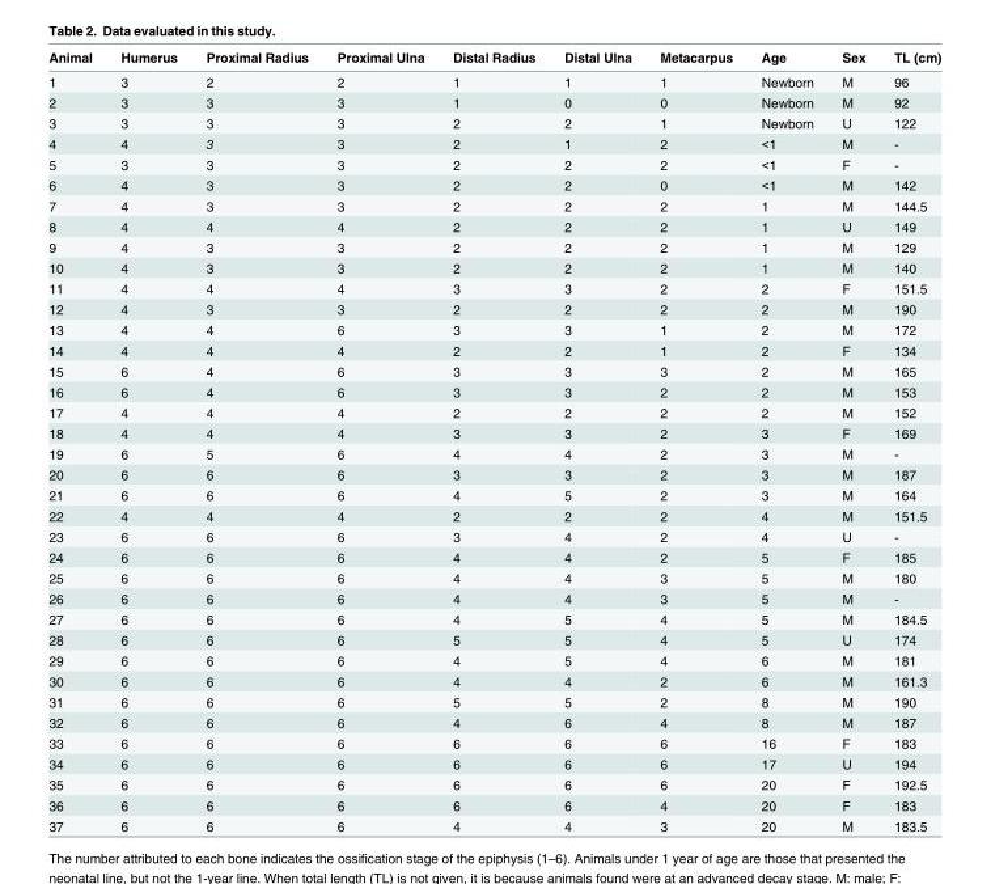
<table><thead><tr><td>Animal</td><td>Humerus</td><td>Proximal Radius</td><td>Proximal Ulna</td><td>Distal Radius</td><td>Distal Ulna</td><td>Metacarpus</td><td>Age</td><td>Sex</td><td>TL (cm)</td></tr></thead><tbody><tr><td>1</td><td>3</td><td>2</td><td>2</td><td>1</td><td>1</td><td>1</td><td>Newborn</td><td>M</td><td>96</td></tr><tr><td>2</td><td>3</td><td>3</td><td>3</td><td>1</td><td>0</td><td>0</td><td>Newborn</td><td>M</td><td>92</td></tr><tr><td>3</td><td>3</td><td>3</td><td>3</td><td>2</td><td>2</td><td>1</td><td>Newborn</td><td>U</td><td>122</td></tr><tr><td>4</td><td>4</td><td>3</td><td>3</td><td>2</td><td>1</td><td>2</td><td>&lt;1</td><td>M</td><td>-</td></tr><tr><td>5</td><td>3</td><td>3</td><td>3</td><td>2</td><td>2</td><td>2</td><td>&lt;1</td><td>F</td><td>-</td></tr><tr><td>6</td><td>4</td><td>3</td><td>3</td><td>2</td><td>2</td><td>0</td><td>&lt;1</td><td>M</td><td>142</td></tr><tr><td>7</td><td>4</td><td>3</td><td>3</td><td>2</td><td>2</td><td>2</td><td>1</td><td>M</td><td>144.5</td></tr><tr><td>8</td><td>4</td><td>4</td><td>4</td><td>2</td><td>2</td><td>2</td><td>1</td><td>U</td><td>149</td></tr><tr><td>9</td><td>4</td><td>3</td><td>3</td><td>2</td><td>2</td><td>2</td><td>1</td><td>M</td><td>129</td></tr><tr><td>10</td><td>4</td><td>3</td><td>3</td><td>2</td><td>2</td><td>2</td><td>1</td><td>M</td><td>140</td></tr><tr><td>11</td><td>4</td><td>4</td><td>4</td><td>3</td><td>3</td><td>2</td><td>2</td><td>F</td><td>151.5</td></tr><tr><td>12</td><td>4</td><td>3</td><td>3</td><td>2</td><td>2</td><td>2</td><td>2</td><td>M</td><td>190</td></tr><tr><td>13</td><td>4</td><td>4</td><td>6</td><td>3</td><td>3</td><td>1</td><td>2</td><td>M</td><td>172</td></tr><tr><td>14</td><td>4</td><td>4</td><td>4</td><td>2</td><td>2</td><td>1</td><td>2</td><td>F</td><td>134</td></tr><tr><td>15</td><td>6</td><td>4</td><td>6</td><td>3</td><td>3</td><td>3</td><td>2</td><td>M</td><td>165</td></tr><tr><td>16</td><td>6</td><td>4</td><td>6</td><td>3</td><td>3</td><td>2</td><td>2</td><td>M</td><td>153</td></tr><tr><td>17</td><td>4</td><td>4</td><td>4</td><td>2</td><td>2</td><td>2</td><td>2</td><td>M</td><td>152</td></tr><tr><td>18</td><td>4</td><td>4</td><td>4</td><td>3</td><td>3</td><td>2</td><td>3</td><td>F</td><td>169</td></tr><tr><td>19</td><td>6</td><td>5</td><td>6</td><td>4</td><td>4</td><td>2</td><td>3</td><td>M</td><td>-</td></tr><tr><td>20</td><td>6</td><td>6</td><td>6</td><td>3</td><td>3</td><td>2</td><td>3</td><td>M</td><td>187</td></tr><tr><td>21</td><td>6</td><td>6</td><td>6</td><td>4</td><td>5</td><td>2</td><td>3</td><td>M</td><td>164</td></tr><tr><td>22</td><td>4</td><td>4</td><td>4</td><td>2</td><td>2</td><td>2</td><td>4</td><td>M</td><td>151.5</td></tr><tr><td>23</td><td>6</td><td>6</td><td>6</td><td>3</td><td>4</td><td>2</td><td>4</td><td>U</td><td>-</td></tr><tr><td>24</td><td>6</td><td>6</td><td>6</td><td>4</td><td>4</td><td>2</td><td>5</td><td>F</td><td>185</td></tr><tr><td>25</td><td>6</td><td>6</td><td>6</td><td>4</td><td>4</td><td>3</td><td>5</td><td>M</td><td>180</td></tr><tr><td>26</td><td>6</td><td>6</td><td>6</td><td>4</td><td>4</td><td>3</td><td>5</td><td>M</td><td>-</td></tr><tr><td>27</td><td>6</td><td>6</td><td>6</td><td>4</td><td>5</td><td>4</td><td>5</td><td>M</td><td>184.5</td></tr><tr><td>28</td><td>6</td><td>6</td><td>6</td><td>5</td><td>5</td><td>4</td><td>5</td><td>U</td><td>174</td></tr><tr><td>29</td><td>6</td><td>6</td><td>6</td><td>4</td><td>5</td><td>4</td><td>6</td><td>M</td><td>181</td></tr><tr><td>30</td><td>6</td><td>6</td><td>6</td><td>4</td><td>4</td><td>2</td><td>6</td><td>M</td><td>161.3</td></tr><tr><td>31</td><td>6</td><td>6</td><td>6</td><td>5</td><td>5</td><td>2</td><td>8</td><td>M</td><td>190</td></tr><tr><td>32</td><td>6</td><td>6</td><td>6</td><td>4</td><td>6</td><td>4</td><td>8</td><td>M</td><td>187</td></tr><tr><td>33</td><td>6</td><td>6</td><td>6</td><td>6</td><td>6</td><td>6</td><td>16</td><td>F</td><td>183</td></tr><tr><td>34</td><td>6</td><td>6</td><td>6</td><td>6</td><td>6</td><td>6</td><td>17</td><td>U</td><td>194</td></tr><tr><td>35</td><td>6</td><td>6</td><td>6</td><td>6</td><td>6</td><td>6</td><td>20</td><td>F</td><td>192.5</td></tr><tr><td>36</td><td>6</td><td>6</td><td>6</td><td>6</td><td>6</td><td>4</td><td>20</td><td>F</td><td>183</td></tr><tr><td>37</td><td>6</td><td>6</td><td>6</td><td>4</td><td>4</td><td>3</td><td>20</td><td>M</td><td>183.5</td></tr></tbody></table>